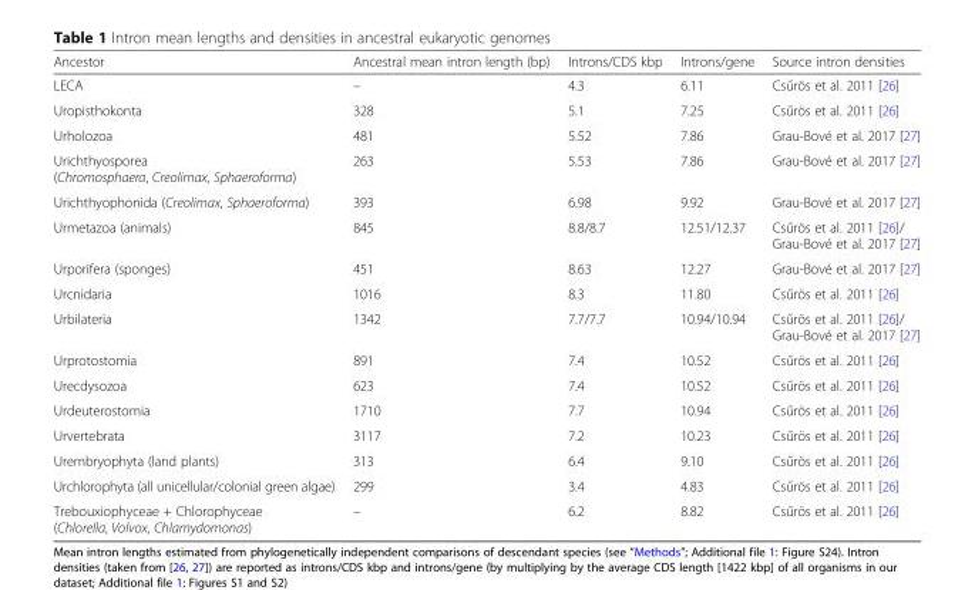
<table><thead><tr><td>Ancestor</td><td>Ancestral mean intron length (bp)</td><td>Introns/CDS kbp</td><td>Introns/gene</td><td>Source intron densities</td></tr></thead><tbody><tr><td>LECA</td><td>–</td><td>4.3</td><td>6.11</td><td>Csűrös et al. 2011 [26]</td></tr><tr><td>Uropisthokonta</td><td>328</td><td>5.1</td><td>7.25</td><td>Csűrös et al. 2011 [26]</td></tr><tr><td>Urholozoa</td><td>481</td><td>5.52</td><td>7.86</td><td>Grau-Bové et al. 2017 [27]</td></tr><tr><td>Urichthyosporea (Chromosphaera, Creolimax, Sphaeroforma)</td><td>263</td><td>5.53</td><td>7.86</td><td>Grau-Bové et al. 2017 [27]</td></tr><tr><td>Urichthyophonida (Creolimax, Sphaeroforma)</td><td>393</td><td>6.98</td><td>9.92</td><td>Grau-Bové et al. 2017 [27]</td></tr><tr><td>Urmetazoa (animals)</td><td>845</td><td>8.8/8.7</td><td>12.51/12.37</td><td>Csűrös et al. 2011 [26]/ Grau-Bové et al. 2017 [27]</td></tr><tr><td>Urporifera (sponges)</td><td>451</td><td>8.63</td><td>12.27</td><td>Grau-Bové et al. 2017 [27]</td></tr><tr><td>Urcnidaria</td><td>1016</td><td>8.3</td><td>11.80</td><td>Csűrös et al. 2011 [26]</td></tr><tr><td>Urbilateria</td><td>1342</td><td>7.7/7.7</td><td>10.94/10.94</td><td>Csűrös et al. 2011 [26]/ Grau-Bové et al. 2017 [27]</td></tr><tr><td>Urprotostomia</td><td>891</td><td>7.4</td><td>10.52</td><td>Csűrös et al. 2011 [26]</td></tr><tr><td>Urecdysozoa</td><td>623</td><td>7.4</td><td>10.52</td><td>Csűrös et al. 2011 [26]</td></tr><tr><td>Urdeuterostomia</td><td>1710</td><td>7.7</td><td>10.94</td><td>Csűrös et al. 2011 [26]</td></tr><tr><td>Urvertebrata</td><td>3117</td><td>7.2</td><td>10.23</td><td>Csűrös et al. 2011 [26]</td></tr><tr><td>Urembryophyta (land plants)</td><td>313</td><td>6.4</td><td>9.10</td><td>Csűrös et al. 2011 [26]</td></tr><tr><td>Urchlorophyta (all unicellular/colonial green algae)</td><td>299</td><td>3.4</td><td>4.83</td><td>Csűrös et al. 2011 [26]</td></tr><tr><td>Trebouxiophyceae + Chlorophyceae (Chlorella, Volvox, Chlamydomonas)</td><td>–</td><td>6.2</td><td>8.82</td><td>Csűrös et al. 2011 [26]</td></tr></tbody></table>